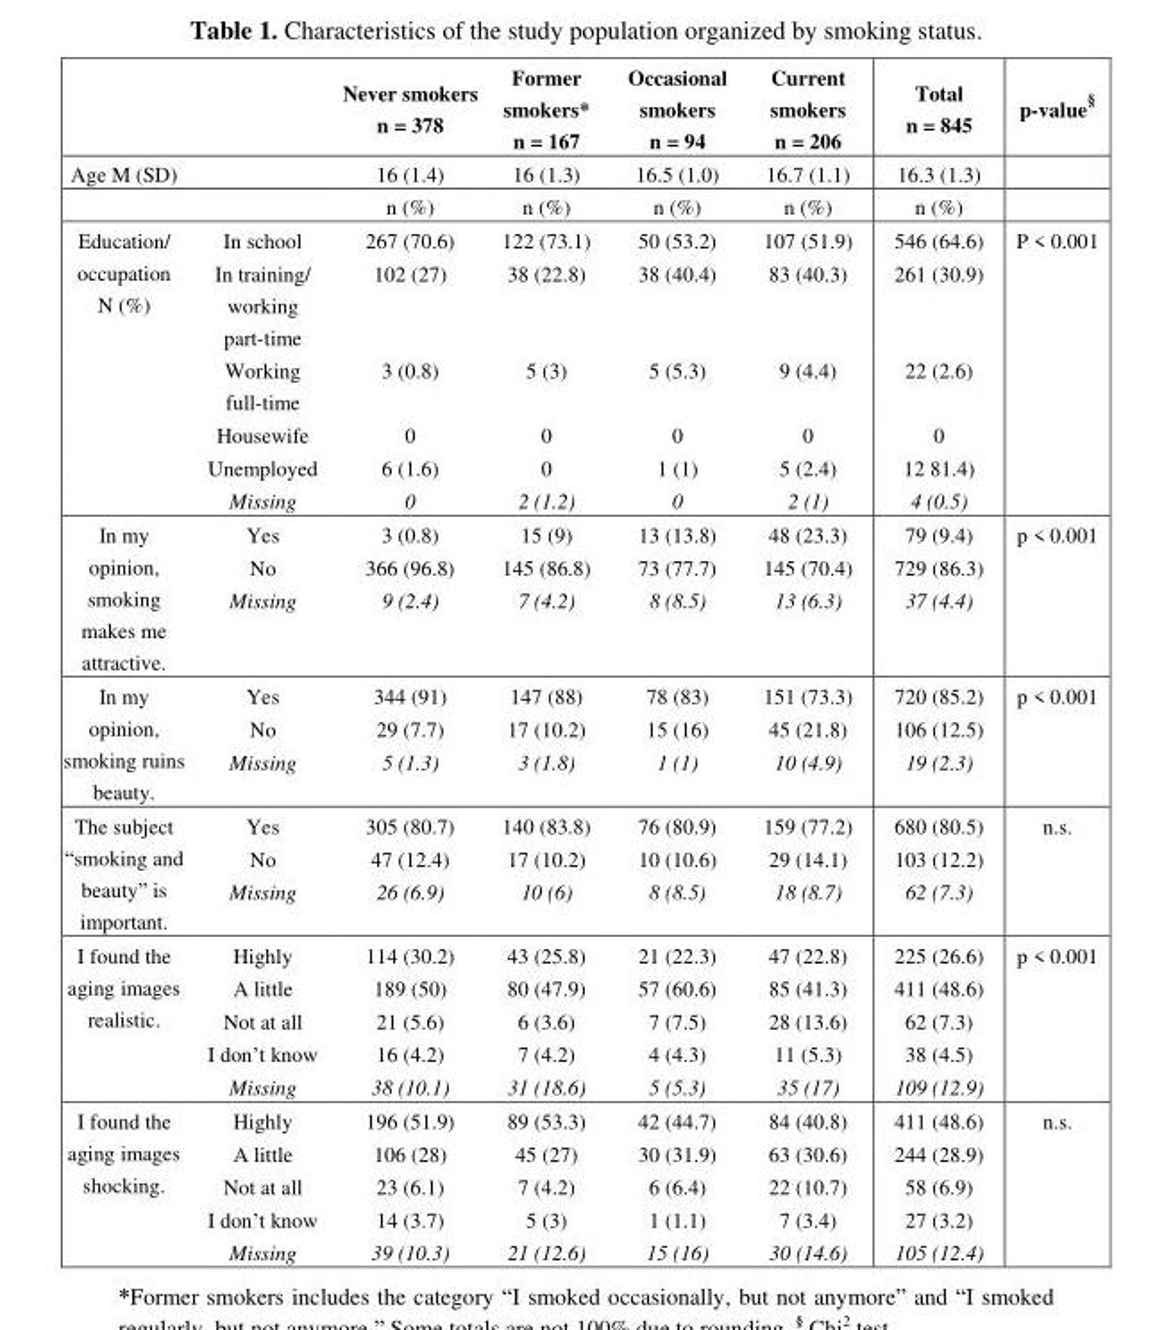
<table><thead><tr><td></td><td></td><td>Never smokers n = 378</td><td>Former smokers* n = 167</td><td>Occasional smokers n = 94</td><td>Current smokers n = 206</td><td>Total n = 845</td><td>p-value<sup>§</sup></td></tr></thead><tbody><tr><td rowspan="2">Age M (SD)</td><td></td><td>16 (1.4)</td><td>16 (1.3)</td><td>16.5 (1.0)</td><td>16.7 (1.1)</td><td>16.3 (1.3)</td><td></td></tr><tr><td></td><td>n (%)</td><td>n (%)</td><td>n (%)</td><td>n (%)</td><td>n (%)</td><td></td></tr><tr><td rowspan="6">Education/ occupation N (%)</td><td>In school</td><td>267 (70.6)</td><td>122 (73.1)</td><td>50 (53.2)</td><td>107 (51.9)</td><td>546 (64.6)</td><td>P &lt; 0.001</td></tr><tr><td>In training/ working part-time</td><td>102 (27)</td><td>38 (22.8)</td><td>38 (40.4)</td><td>83 (40.3)</td><td>261 (30.9)</td><td></td></tr><tr><td>Working full-time</td><td>3 (0.8)</td><td>5 (3)</td><td>5 (5.3)</td><td>9 (4.4)</td><td>22 (2.6)</td><td></td></tr><tr><td>Housewife</td><td>0</td><td>0</td><td>0</td><td>0</td><td>0</td><td></td></tr><tr><td>Unemployed</td><td>6 (1.6)</td><td>0</td><td>1 (1)</td><td>5 (2.4)</td><td>12 81.4)</td><td></td></tr><tr><td>Missing</td><td>0</td><td>2 (1.2)</td><td>0</td><td>2 (1)</td><td>4 (0.5)</td><td></td></tr><tr><td rowspan="3">In my opinion, smoking makes me attractive.</td><td>Yes</td><td>3 (0.8)</td><td>15 (9)</td><td>13 (13.8)</td><td>48 (23.3)</td><td>79 (9.4)</td><td>p &lt; 0.001</td></tr><tr><td>No</td><td>366 (96.8)</td><td>145 (86.8)</td><td>73 (77.7)</td><td>145 (70.4)</td><td>729 (86.3)</td><td></td></tr><tr><td>Missing</td><td>9 (2.4)</td><td>7 (4.2)</td><td>8 (8.5)</td><td>13 (6.3)</td><td>37 (4.4)</td><td></td></tr><tr><td rowspan="3">In my opinion, smoking ruins beauty.</td><td>Yes</td><td>344 (91)</td><td>147 (88)</td><td>78 (83)</td><td>151 (73.3)</td><td>720 (85.2)</td><td>p &lt; 0.001</td></tr><tr><td>No</td><td>29 (7.7)</td><td>17 (10.2)</td><td>15 (16)</td><td>45 (21.8)</td><td>106 (12.5)</td><td></td></tr><tr><td>Missing</td><td>5 (1.3)</td><td>3 (1.8)</td><td>1 (1)</td><td>10 (4.9)</td><td>19 (2.3)</td><td></td></tr><tr><td rowspan="3">The subject “smoking and beauty” is important.</td><td>Yes</td><td>305 (80.7)</td><td>140 (83.8)</td><td>76 (80.9)</td><td>159 (77.2)</td><td>680 (80.5)</td><td>n.s.</td></tr><tr><td>No</td><td>47 (12.4)</td><td>17 (10.2)</td><td>10 (10.6)</td><td>29 (14.1)</td><td>103 (12.2)</td><td></td></tr><tr><td>Missing</td><td>26 (6.9)</td><td>10 (6)</td><td>8 (8.5)</td><td>18 (8.7)</td><td>62 (7.3)</td><td></td></tr><tr><td rowspan="5">I found the aging images realistic.</td><td>Highly</td><td>114 (30.2)</td><td>43 (25.8)</td><td>21 (22.3)</td><td>47 (22.8)</td><td>225 (26.6)</td><td>p &lt; 0.001</td></tr><tr><td>A little</td><td>189 (50)</td><td>80 (47.9)</td><td>57 (60.6)</td><td>85 (41.3)</td><td>411 (48.6)</td><td></td></tr><tr><td>Not at all</td><td>21 (5.6)</td><td>6 (3.6)</td><td>7 (7.5)</td><td>28 (13.6)</td><td>62 (7.3)</td><td></td></tr><tr><td>I don’t know</td><td>16 (4.2)</td><td>7 (4.2)</td><td>4 (4.3)</td><td>11 (5.3)</td><td>38 (4.5)</td><td></td></tr><tr><td>Missing</td><td>38 (10.1)</td><td>31 (18.6)</td><td>5 (5.3)</td><td>35 (17)</td><td>109 (12.9)</td><td></td></tr><tr><td rowspan="5">I found the aging images shocking.</td><td>Highly</td><td>196 (51.9)</td><td>89 (53.3)</td><td>42 (44.7)</td><td>84 (40.8)</td><td>411 (48.6)</td><td>n.s.</td></tr><tr><td>A little</td><td>106 (28)</td><td>45 (27)</td><td>30 (31.9)</td><td>63 (30.6)</td><td>244 (28.9)</td><td></td></tr><tr><td>Not at all</td><td>23 (6.1)</td><td>7 (4.2)</td><td>6 (6.4)</td><td>22 (10.7)</td><td>58 (6.9)</td><td></td></tr><tr><td>I don’t know</td><td>14 (3.7)</td><td>5 (3)</td><td>1 (1.1)</td><td>7 (3.4)</td><td>27 (3.2)</td><td></td></tr><tr><td>Missing</td><td>39 (10.3)</td><td>21 (12.6)</td><td>15 (16)</td><td>30 (14.6)</td><td>105 (12.4)</td><td></td></tr></tbody></table>